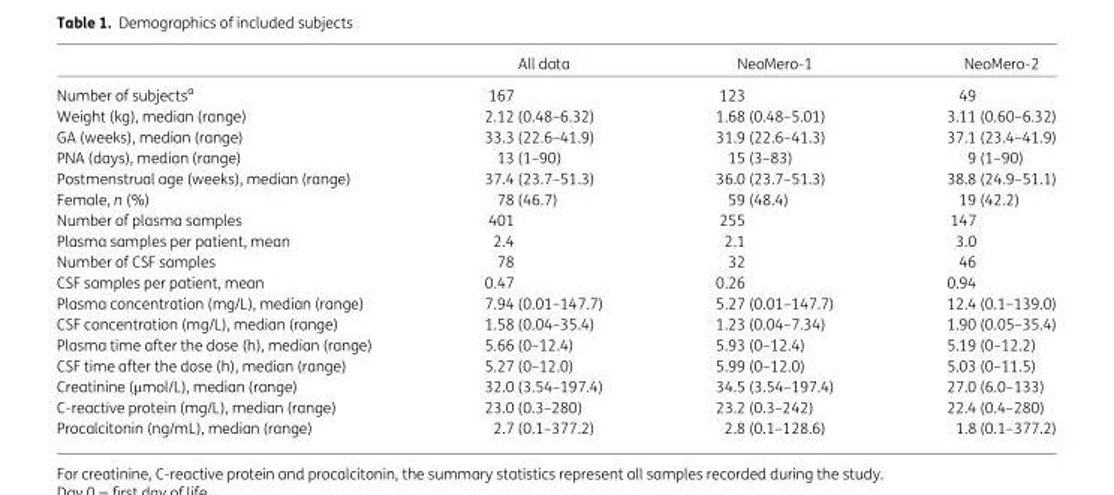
<table><thead><tr><td></td><td>All data</td><td>NeoMero-1</td><td>NeoMero-2</td></tr></thead><tbody><tr><td>Number of subjects<sup>a</sup></td><td>167</td><td>123</td><td>49</td></tr><tr><td>Weight (kg), median (range)</td><td>2.12 (0.48–6.32)</td><td>1.68 (0.48–5.01)</td><td>3.11 (0.60–6.32)</td></tr><tr><td>GA (weeks), median (range)</td><td>33.3 (22.6–41.9)</td><td>31.9 (22.6–41.3)</td><td>37.1 (23.4–41.9)</td></tr><tr><td>PNA (days), median (range)</td><td>13 (1–90)</td><td>15 (3–83)</td><td>9 (1–90)</td></tr><tr><td>Postmenstrual age (weeks), median (range)</td><td>37.4 (23.7–51.3)</td><td>36.0 (23.7–51.3)</td><td>38.8 (24.9–51.1)</td></tr><tr><td>Female, n (%)</td><td>78 (46.7)</td><td>59 (48.4)</td><td>19 (42.2)</td></tr><tr><td>Number of plasma samples</td><td>401</td><td>255</td><td>147</td></tr><tr><td>Plasma samples per patient, mean</td><td>2.4</td><td>2.1</td><td>3.0</td></tr><tr><td>Number of CSF samples</td><td>78</td><td>32</td><td>46</td></tr><tr><td>CSF samples per patient, mean</td><td>0.47</td><td>0.26</td><td>0.94</td></tr><tr><td>Plasma concentration (mg/L), median (range)</td><td>7.94 (0.01–147.7)</td><td>5.27 (0.01–147.7)</td><td>12.4 (0.1–139.0)</td></tr><tr><td>CSF concentration (mg/L), median (range)</td><td>1.58 (0.04–35.4)</td><td>1.23 (0.04–7.34)</td><td>1.90 (0.05–35.4)</td></tr><tr><td>Plasma time after the dose (h), median (range)</td><td>5.66 (0–12.4)</td><td>5.93 (0–12.4)</td><td>5.19 (0–12.2)</td></tr><tr><td>CSF time after the dose (h), median (range)</td><td>5.27 (0–12.0)</td><td>5.99 (0–12.0)</td><td>5.03 (0–11.5)</td></tr><tr><td>Creatinine (μmol/L), median (range)</td><td>32.0 (3.54–197.4)</td><td>34.5 (3.54–197.4)</td><td>27.0 (6.0–133)</td></tr><tr><td>C-reactive protein (mg/L), median (range)</td><td>23.0 (0.3–280)</td><td>23.2 (0.3–242)</td><td>22.4 (0.4–280)</td></tr><tr><td>Procalcitonin (ng/mL), median (range)</td><td>2.7 (0.1–377.2)</td><td>2.8 (0.1–128.6)</td><td>1.8 (0.1–377.2)</td></tr></tbody></table>